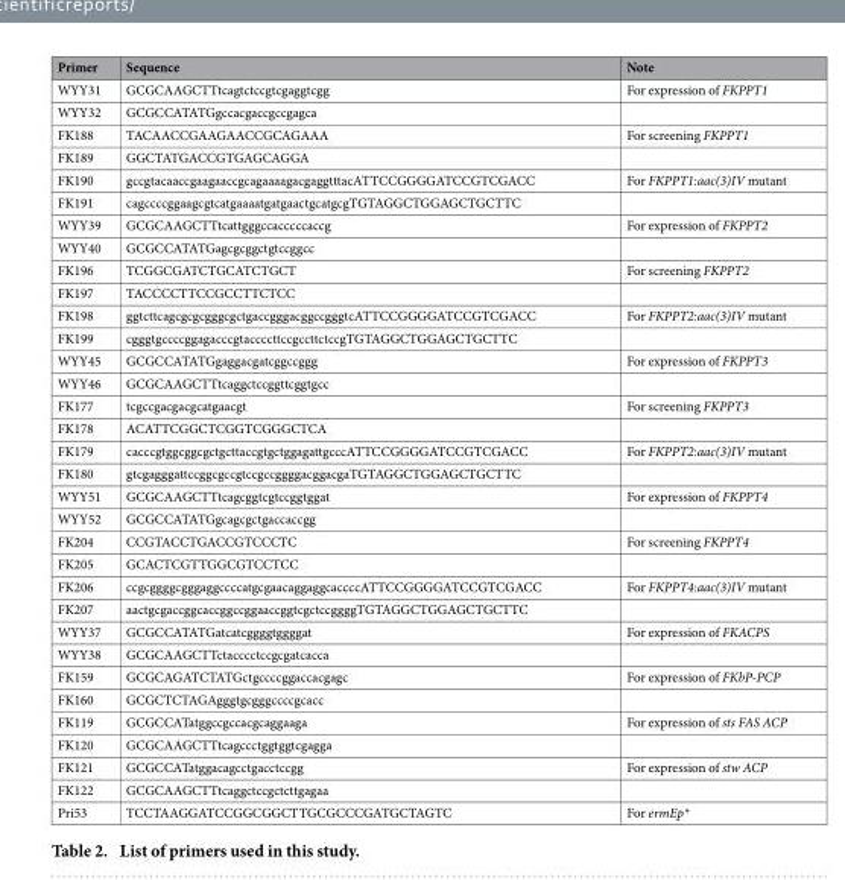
<table><thead><tr><td>Primer</td><td>Sequence</td><td>Note</td></tr></thead><tbody><tr><td>WYY31</td><td>GCGCAAGCTTtcagtctccgtcgaggtcgg</td><td>For expression of FKPPT1</td></tr><tr><td>WYY32</td><td>GCGCCATATGgccacgaccgccgagca</td><td></td></tr><tr><td>FK188</td><td>TACAACCGAAGAACCGCAGAAA</td><td>For screening FKPPT1</td></tr><tr><td>FK189</td><td>GGCTATGACCGTGAGCAGGA</td><td></td></tr><tr><td>FK190</td><td>gccgtacaaccgaagaaccgcagaaaagacgaggtttacATTCCGGGGATCCGTCGACC</td><td>For FKPPT1:aac(3)IV mutant</td></tr><tr><td>FK191</td><td>cagccccggaagcgtcatgaaaatgatgaactgcatgcgTGTAGGCTGGAGCTGCTTC</td><td></td></tr><tr><td>WYY39</td><td>GCGCAAGCTTtcattgggccacccccaccg</td><td>For expression of FKPPT2</td></tr><tr><td>WYY40</td><td>GCGCCATATGagcgcggctgtccggcc</td><td></td></tr><tr><td>FK196</td><td>TCGGCGATCTGCATCTGCT</td><td>For screening FKPPT2</td></tr><tr><td>FK197</td><td>TACCCCTTCCGCCTTCTCC</td><td></td></tr><tr><td>FK198</td><td>ggtcttcagcgcgcgggcgctgaccgggacggccgggtcATTCCGGGGATCCGTCGACC</td><td>For FKPPT2:aac(3)IV mutant</td></tr><tr><td>FK199</td><td>cgggtgccccggagacccgtaccccttccgccttctccgTGTAGGCTGGAGCTGCTTC</td><td></td></tr><tr><td>WYY45</td><td>GCGCCATATGgaggacgatcggccggg</td><td>For expression of FKPPT3</td></tr><tr><td>WYY46</td><td>GCGCAAGCTTtcaggctccggttcggtgcc</td><td></td></tr><tr><td>FK177</td><td>tcgccgacgacgcatgaacgt</td><td>For screening FKPPT3</td></tr><tr><td>FK178</td><td>ACATTCGGCTCGGTCGGGCTCA</td><td></td></tr><tr><td>FK179</td><td>cacccgtggcggcgctgcttaccgtgctggagattgcccATTCCGGGGATCCGTCGACC</td><td>For FKPPT2:aac(3)IV mutant</td></tr><tr><td>FK180</td><td>gtcgagggattccggcgccgtccgccggggacggacgaTGTAGGCTGGAGCTGCTTC</td><td></td></tr><tr><td>WYY51</td><td>GCGCAAGCTTtcagcggtcgtccggtggat</td><td>For expression of FKPPT4</td></tr><tr><td>WYY52</td><td>GCGCCATATGgcagcgctgaccaccgg</td><td></td></tr><tr><td>FK204</td><td>CCGTACCTGACCGTCCCTC</td><td>For screening FKPPT4</td></tr><tr><td>FK205</td><td>GCACTCGTTGGCGTCCTCC</td><td></td></tr><tr><td>FK206</td><td>ccgcggggcgggaggccccatgcgaacaggaggcaccccATTCCGGGGATCCGTCGACC</td><td>For FKPPT4:aac(3)IV mutant</td></tr><tr><td>FK207</td><td>aactgcgaccggcaccggccggaaccggtcgctccggggTGTAGGCTGGAGCTGCTTC</td><td></td></tr><tr><td>WYY37</td><td>GCGCCATATGatcatcggggtggggat</td><td>For expression of FKACPS</td></tr><tr><td>WYY38</td><td>GCGCAAGCTTctacccctccgcgatcacca</td><td></td></tr><tr><td>FK159</td><td>GCGCAGATCTATGctgccccggaccacgagc</td><td>For expression of FKbP-PCP</td></tr><tr><td>FK160</td><td>GCGCTCTAGAgggtgcgggccccgcacc</td><td></td></tr><tr><td>FK119</td><td>GCGCCATatggccgccacgcaggaaga</td><td>For expression of sts FAS ACP</td></tr><tr><td>FK120</td><td>GCGCAAGCTTtcagccctggtggtcgagga</td><td></td></tr><tr><td>FK121</td><td>GCGCCATatggacagcctgacctccgg</td><td>For expression of stw ACP</td></tr><tr><td>FK122</td><td>GCGCAAGCTTtcaggctccgctcttgagaa</td><td></td></tr><tr><td>Pri53</td><td>TCCTAAGGATCCGGCGGCTTGCGCCCGATGCTAGTC</td><td>For ermEp*</td></tr></tbody></table>